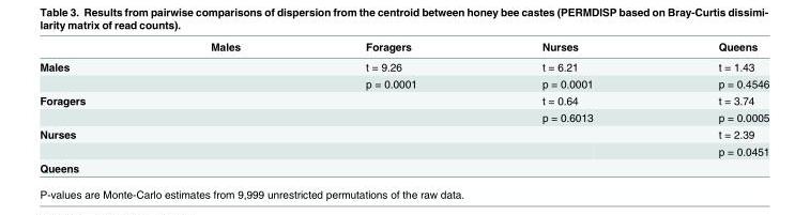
<table><thead><tr><td></td><td>Males</td><td>Foragers</td><td>Nurses</td><td>Queens</td></tr></thead><tbody><tr><td rowspan="2">Males</td><td></td><td>t = 9.26</td><td>t = 6.21</td><td>t = 1.43</td></tr><tr><td></td><td>p = 0.0001</td><td>p = 0.0001</td><td>p = 0.4546</td></tr><tr><td rowspan="2">Foragers</td><td></td><td></td><td>t = 0.64</td><td>t = 3.74</td></tr><tr><td></td><td></td><td>p = 0.6013</td><td>p = 0.0005</td></tr><tr><td rowspan="2">Nurses</td><td></td><td></td><td></td><td>t = 2.39</td></tr><tr><td></td><td></td><td></td><td>p = 0.0451</td></tr><tr><td>Queens</td><td></td><td></td><td></td><td></td></tr></tbody></table>